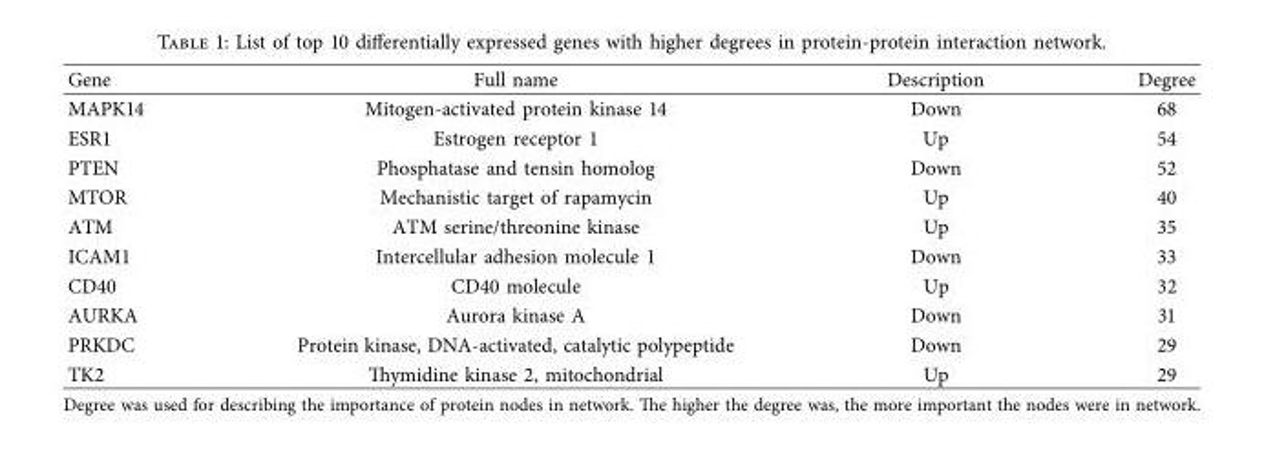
<table><thead><tr><td>Gene</td><td>Full name</td><td>Description</td><td>Degree</td></tr></thead><tbody><tr><td>MAPK14</td><td>Mitogen-activated protein kinase 14</td><td>Down</td><td>68</td></tr><tr><td>ESR1</td><td>Estrogen receptor 1</td><td>Up</td><td>54</td></tr><tr><td>PTEN</td><td>Phosphatase and tensin homolog</td><td>Down</td><td>52</td></tr><tr><td>MTOR</td><td>Mechanistic target of rapamycin</td><td>Up</td><td>40</td></tr><tr><td>ATM</td><td>ATM serine/threonine kinase</td><td>Up</td><td>35</td></tr><tr><td>ICAM1</td><td>Intercellular adhesion molecule 1</td><td>Down</td><td>33</td></tr><tr><td>CD40</td><td>CD40 molecule</td><td>Up</td><td>32</td></tr><tr><td>AURKA</td><td>Aurora kinase A</td><td>Down</td><td>31</td></tr><tr><td>PRKDC</td><td>Protein kinase, DNA-activated, catalytic polypeptide</td><td>Down</td><td>29</td></tr><tr><td>TK2</td><td>Tymidine kinase 2, mitochondrial</td><td>Up</td><td>29</td></tr></tbody></table>